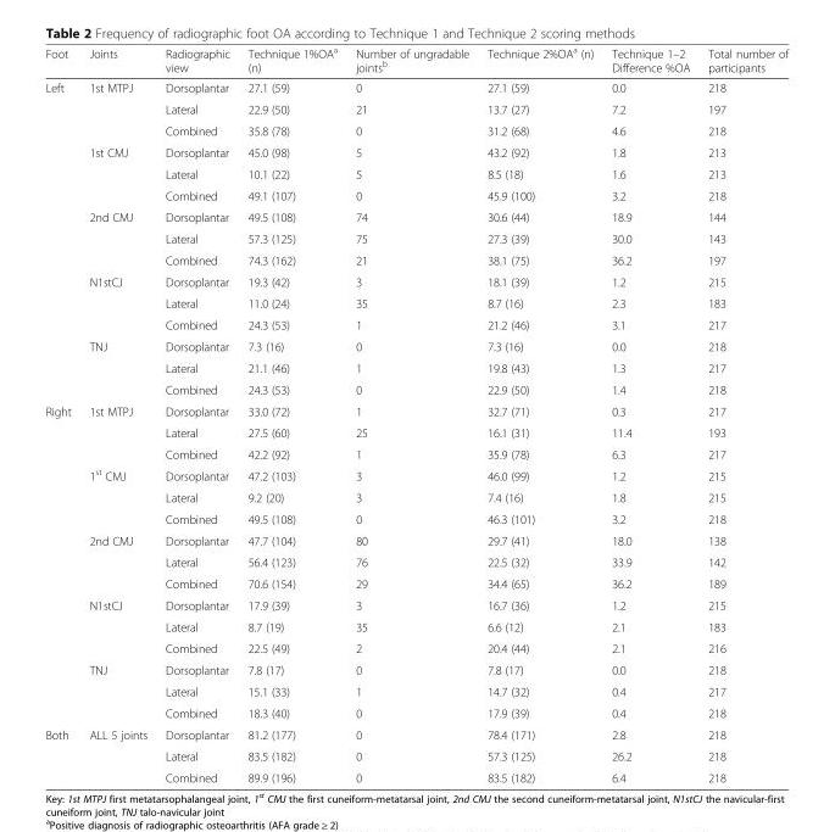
<table><thead><tr><td>Foot</td><td>Joints</td><td>Radiographic view</td><td>Technique 1%OA<sup>a</sup> (n)</td><td>Number of ungradable joints<sup>b</sup></td><td>Technique 2%OA<sup>a</sup> (n)</td><td>Technique 1–2 Difference %OA</td><td>Total number of participants</td></tr></thead><tbody><tr><td rowspan="15">Left</td><td rowspan="3">1st MTPJ</td><td>Dorsoplantar</td><td>27.1 (59)</td><td>0</td><td>27.1 (59)</td><td>0.0</td><td>218</td></tr><tr><td>Lateral</td><td>22.9 (50)</td><td>21</td><td>13.7 (27)</td><td>7.2</td><td>197</td></tr><tr><td>Combined</td><td>35.8 (78)</td><td>0</td><td>31.2 (68)</td><td>4.6</td><td>218</td></tr><tr><td rowspan="3">1st CMJ</td><td>Dorsoplantar</td><td>45.0 (98)</td><td>5</td><td>43.2 (92)</td><td>1.8</td><td>213</td></tr><tr><td>Lateral</td><td>10.1 (22)</td><td>5</td><td>8.5 (18)</td><td>1.6</td><td>213</td></tr><tr><td>Combined</td><td>49.1 (107)</td><td>0</td><td>45.9 (100)</td><td>3.2</td><td>218</td></tr><tr><td rowspan="3">2nd CMJ</td><td>Dorsoplantar</td><td>49.5 (108)</td><td>74</td><td>30.6 (44)</td><td>18.9</td><td>144</td></tr><tr><td>Lateral</td><td>57.3 (125)</td><td>75</td><td>27.3 (39)</td><td>30.0</td><td>143</td></tr><tr><td>Combined</td><td>74.3 (162)</td><td>21</td><td>38.1 (75)</td><td>36.2</td><td>197</td></tr><tr><td rowspan="3">N1stCJ</td><td>Dorsoplantar</td><td>19.3 (42)</td><td>3</td><td>18.1 (39)</td><td>1.2</td><td>215</td></tr><tr><td>Lateral</td><td>11.0 (24)</td><td>35</td><td>8.7 (16)</td><td>2.3</td><td>183</td></tr><tr><td>Combined</td><td>24.3 (53)</td><td>1</td><td>21.2 (46)</td><td>3.1</td><td>217</td></tr><tr><td rowspan="3">TNJ</td><td>Dorsoplantar</td><td>7.3 (16)</td><td>0</td><td>7.3 (16)</td><td>0.0</td><td>218</td></tr><tr><td>Lateral</td><td>21.1 (46)</td><td>1</td><td>19.8 (43)</td><td>1.3</td><td>217</td></tr><tr><td>Combined</td><td>24.3 (53)</td><td>0</td><td>22.9 (50)</td><td>1.4</td><td>218</td></tr><tr><td rowspan="15">Right</td><td rowspan="3">1st MTPJ</td><td>Dorsoplantar</td><td>33.0 (72)</td><td>1</td><td>32.7 (71)</td><td>0.3</td><td>217</td></tr><tr><td>Lateral</td><td>27.5 (60)</td><td>25</td><td>16.1 (31)</td><td>11.4</td><td>193</td></tr><tr><td>Combined</td><td>42.2 (92)</td><td>1</td><td>35.9 (78)</td><td>6.3</td><td>217</td></tr><tr><td rowspan="3">1<sup>st</sup> CMJ</td><td>Dorsoplantar</td><td>47.2 (103)</td><td>3</td><td>46.0 (99)</td><td>1.2</td><td>215</td></tr><tr><td>Lateral</td><td>9.2 (20)</td><td>3</td><td>7.4 (16)</td><td>1.8</td><td>215</td></tr><tr><td>Combined</td><td>49.5 (108)</td><td>0</td><td>46.3 (101)</td><td>3.2</td><td>218</td></tr><tr><td rowspan="3">2nd CMJ</td><td>Dorsoplantar</td><td>47.7 (104)</td><td>80</td><td>29.7 (41)</td><td>18.0</td><td>138</td></tr><tr><td>Lateral</td><td>56.4 (123)</td><td>76</td><td>22.5 (32)</td><td>33.9</td><td>142</td></tr><tr><td>Combined</td><td>70.6 (154)</td><td>29</td><td>34.4 (65)</td><td>36.2</td><td>189</td></tr><tr><td rowspan="3">N1stCJ</td><td>Dorsoplantar</td><td>17.9 (39)</td><td>3</td><td>16.7 (36)</td><td>1.2</td><td>215</td></tr><tr><td>Lateral</td><td>8.7 (19)</td><td>35</td><td>6.6 (12)</td><td>2.1</td><td>183</td></tr><tr><td>Combined</td><td>22.5 (49)</td><td>2</td><td>20.4 (44)</td><td>2.1</td><td>216</td></tr><tr><td rowspan="3">TNJ</td><td>Dorsoplantar</td><td>7.8 (17)</td><td>0</td><td>7.8 (17)</td><td>0.0</td><td>218</td></tr><tr><td>Lateral</td><td>15.1 (33)</td><td>1</td><td>14.7 (32)</td><td>0.4</td><td>217</td></tr><tr><td>Combined</td><td>18.3 (40)</td><td>0</td><td>17.9 (39)</td><td>0.4</td><td>218</td></tr><tr><td rowspan="3">Both</td><td rowspan="3">ALL 5 joints</td><td>Dorsoplantar</td><td>81.2 (177)</td><td>0</td><td>78.4 (171)</td><td>2.8</td><td>218</td></tr><tr><td>Lateral</td><td>83.5 (182)</td><td>0</td><td>57.3 (125)</td><td>26.2</td><td>218</td></tr><tr><td>Combined</td><td>89.9 (196)</td><td>0</td><td>83.5 (182)</td><td>6.4</td><td>218</td></tr></tbody></table>